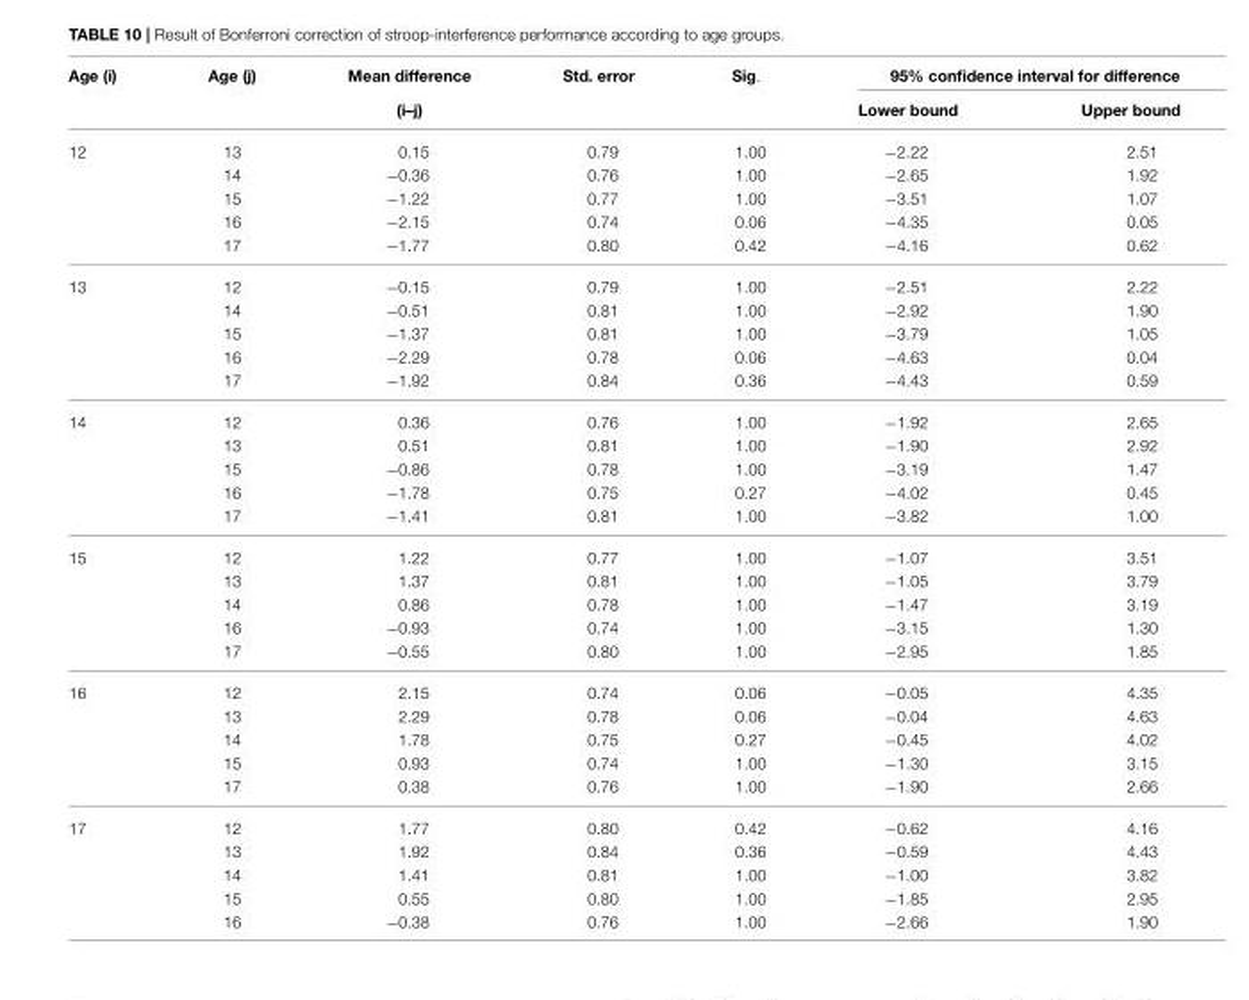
<table><thead><tr><td rowspan="2">Age (i)</td><td rowspan="2">Age (j)</td><td rowspan="2">Mean difference (i–j)</td><td rowspan="2">Std. error</td><td rowspan="2">Sig.</td><td colspan="2">95% confidence interval for difference</td></tr><tr><td>Lower bound</td><td>Upper bound</td></tr></thead><tbody><tr><td rowspan="5">12</td><td>13</td><td>0.15</td><td>0.79</td><td>1.00</td><td>−2.22</td><td>2.51</td></tr><tr><td>14</td><td>−0.36</td><td>0.76</td><td>1.00</td><td>−2.65</td><td>1.92</td></tr><tr><td>15</td><td>−1.22</td><td>0.77</td><td>1.00</td><td>−3.51</td><td>1.07</td></tr><tr><td>16</td><td>−2.15</td><td>0.74</td><td>0.06</td><td>−4.35</td><td>0.05</td></tr><tr><td>17</td><td>−1.77</td><td>0.80</td><td>0.42</td><td>−4.16</td><td>0.62</td></tr><tr><td rowspan="5">13</td><td>12</td><td>−0.15</td><td>0.79</td><td>1.00</td><td>−2.51</td><td>2.22</td></tr><tr><td>14</td><td>−0.51</td><td>0.81</td><td>1.00</td><td>−2.92</td><td>1.90</td></tr><tr><td>15</td><td>−1.37</td><td>0.81</td><td>1.00</td><td>−3.79</td><td>1.05</td></tr><tr><td>16</td><td>−2.29</td><td>0.78</td><td>0.06</td><td>−4.63</td><td>0.04</td></tr><tr><td>17</td><td>−1.92</td><td>0.84</td><td>0.36</td><td>−4.43</td><td>0.59</td></tr><tr><td rowspan="5">14</td><td>12</td><td>0.36</td><td>0.76</td><td>1.00</td><td>−1.92</td><td>2.65</td></tr><tr><td>13</td><td>0.51</td><td>0.81</td><td>1.00</td><td>−1.90</td><td>2.92</td></tr><tr><td>15</td><td>−0.86</td><td>0.78</td><td>1.00</td><td>−3.19</td><td>1.47</td></tr><tr><td>16</td><td>−1.78</td><td>0.75</td><td>0.27</td><td>−4.02</td><td>0.45</td></tr><tr><td>17</td><td>−1.41</td><td>0.81</td><td>1.00</td><td>−3.82</td><td>1.00</td></tr><tr><td rowspan="5">15</td><td>12</td><td>1.22</td><td>0.77</td><td>1.00</td><td>−1.07</td><td>3.51</td></tr><tr><td>13</td><td>1.37</td><td>0.81</td><td>1.00</td><td>−1.05</td><td>3.79</td></tr><tr><td>14</td><td>0.86</td><td>0.78</td><td>1.00</td><td>−1.47</td><td>3.19</td></tr><tr><td>16</td><td>−0.93</td><td>0.74</td><td>1.00</td><td>−3.15</td><td>1.30</td></tr><tr><td>17</td><td>−0.55</td><td>0.80</td><td>1.00</td><td>−2.95</td><td>1.85</td></tr><tr><td rowspan="5">16</td><td>12</td><td>2.15</td><td>0.74</td><td>0.06</td><td>−0.05</td><td>4.35</td></tr><tr><td>13</td><td>2.29</td><td>0.78</td><td>0.06</td><td>−0.04</td><td>4.63</td></tr><tr><td>14</td><td>1.78</td><td>0.75</td><td>0.27</td><td>−0.45</td><td>4.02</td></tr><tr><td>15</td><td>0.93</td><td>0.74</td><td>1.00</td><td>−1.30</td><td>3.15</td></tr><tr><td>17</td><td>0.38</td><td>0.76</td><td>1.00</td><td>−1.90</td><td>2.66</td></tr><tr><td rowspan="5">17</td><td>12</td><td>1.77</td><td>0.80</td><td>0.42</td><td>−0.62</td><td>4.16</td></tr><tr><td>13</td><td>1.92</td><td>0.84</td><td>0.36</td><td>−0.59</td><td>4.43</td></tr><tr><td>14</td><td>1.41</td><td>0.81</td><td>1.00</td><td>−1.00</td><td>3.82</td></tr><tr><td>15</td><td>0.55</td><td>0.80</td><td>1.00</td><td>−1.85</td><td>2.95</td></tr><tr><td>16</td><td>−0.38</td><td>0.76</td><td>1.00</td><td>−2.66</td><td>1.90</td></tr></tbody></table>